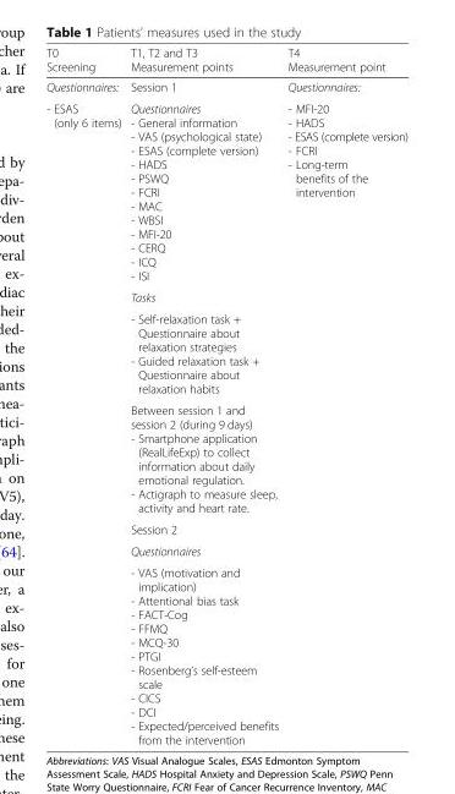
<table><thead><tr><td>T0 Screening</td><td>T1, T2 and T3 Measurement points</td><td>T4 Measurement point</td></tr></thead><tbody><tr><td>Questionnaires:</td><td>Session 1</td><td>Questionnaires:</td></tr><tr><td rowspan="7">- ESAS (only 6 items)</td><td>Questionnaires - General information - VAS (psychological state) - ESAS (complete version) - HADS - PSWQ - FCRI - MAC - WBSI - MFI-20 - CERQ - ICQ - ISI</td><td>- MFI-20 - HADS - ESAS (complete version) - FCRI - Long-term benefits of the intervention</td></tr><tr><td>Tasks</td><td></td></tr><tr><td>- Self-relaxation task + Questionnaire about relaxation strategies - Guided relaxation task + Questionnaire about relaxation habits</td><td></td></tr><tr><td>Between session 1 and session 2 (during 9 days) - Smartphone application (RealLifeExp) to collect information about daily emotional regulation. - Actigraph to measure sleep, activity and heart rate.</td><td></td></tr><tr><td>Session 2</td><td></td></tr><tr><td>Questionnaires</td><td></td></tr><tr><td>- VAS (motivation and implication) - Attentional bias task - FACT-Cog - FFMQ - MCQ-30 - PTGI - Rosenberg’s self-esteem scale - CICS - DCI - Expected/perceived benefits from the intervention</td><td></td></tr></tbody></table>